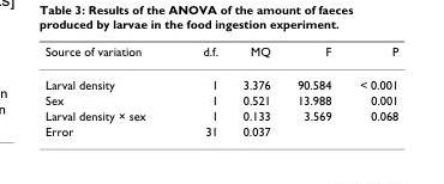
<table><thead><tr><td>Source of variation</td><td>d.f.</td><td>MQ</td><td>F</td><td>P</td></tr></thead><tbody><tr><td>Larval density</td><td>1</td><td>3.376</td><td>90.584</td><td>&lt; 0.001</td></tr><tr><td>Sex</td><td>1</td><td>0.521</td><td>13.988</td><td>0.001</td></tr><tr><td>Larval density × sex</td><td>1</td><td>0.133</td><td>3.569</td><td>0.068</td></tr><tr><td>Error</td><td>31</td><td>0.037</td><td></td><td></td></tr></tbody></table>